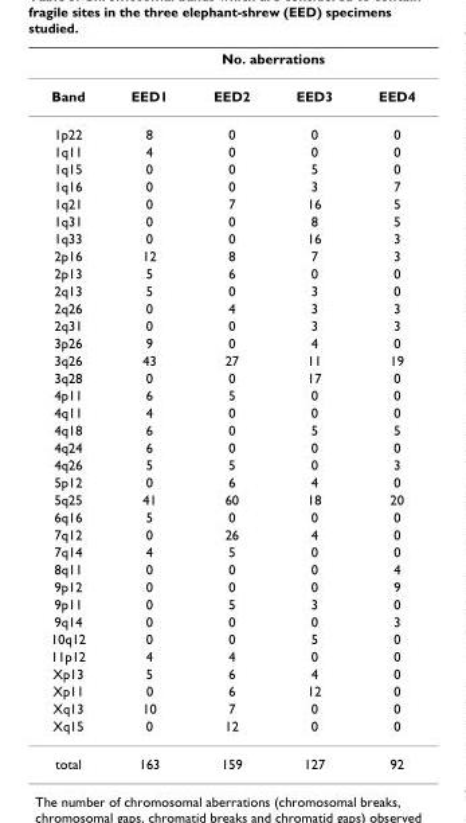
<table><thead><tr><td rowspan="2">Band</td><td colspan="4">No. aberrations</td></tr><tr><td>EED1</td><td>EED2</td><td>EED3</td><td>EED4</td></tr></thead><tbody><tr><td>1p22</td><td>8</td><td>0</td><td>0</td><td>0</td></tr><tr><td>1q11</td><td>4</td><td>0</td><td>0</td><td>0</td></tr><tr><td>1q15</td><td>0</td><td>0</td><td>5</td><td>0</td></tr><tr><td>1q16</td><td>0</td><td>0</td><td>3</td><td>7</td></tr><tr><td>1q21</td><td>0</td><td>7</td><td>16</td><td>5</td></tr><tr><td>1q31</td><td>0</td><td>0</td><td>8</td><td>5</td></tr><tr><td>1q33</td><td>0</td><td>0</td><td>16</td><td>3</td></tr><tr><td>2p16</td><td>12</td><td>8</td><td>7</td><td>3</td></tr><tr><td>2p13</td><td>5</td><td>6</td><td>0</td><td>0</td></tr><tr><td>2q13</td><td>5</td><td>0</td><td>3</td><td>0</td></tr><tr><td>2q26</td><td>0</td><td>4</td><td>3</td><td>3</td></tr><tr><td>2q31</td><td>0</td><td>0</td><td>3</td><td>3</td></tr><tr><td>3p26</td><td>9</td><td>0</td><td>4</td><td>0</td></tr><tr><td>3q26</td><td>43</td><td>27</td><td>11</td><td>19</td></tr><tr><td>3q28</td><td>0</td><td>0</td><td>17</td><td>0</td></tr><tr><td>4p11</td><td>6</td><td>5</td><td>0</td><td>0</td></tr><tr><td>4q11</td><td>4</td><td>0</td><td>0</td><td>0</td></tr><tr><td>4q18</td><td>6</td><td>0</td><td>5</td><td>5</td></tr><tr><td>4q24</td><td>6</td><td>0</td><td>0</td><td>0</td></tr><tr><td>4q26</td><td>5</td><td>5</td><td>0</td><td>3</td></tr><tr><td>5p12</td><td>0</td><td>6</td><td>4</td><td>0</td></tr><tr><td>5q25</td><td>41</td><td>60</td><td>18</td><td>20</td></tr><tr><td>6q16</td><td>5</td><td>0</td><td>0</td><td>0</td></tr><tr><td>7q12</td><td>0</td><td>26</td><td>4</td><td>0</td></tr><tr><td>7q14</td><td>4</td><td>5</td><td>0</td><td>0</td></tr><tr><td>8q11</td><td>0</td><td>0</td><td>0</td><td>4</td></tr><tr><td>9p12</td><td>0</td><td>0</td><td>0</td><td>9</td></tr><tr><td>9p11</td><td>0</td><td>5</td><td>3</td><td>0</td></tr><tr><td>9q14</td><td>0</td><td>0</td><td>0</td><td>3</td></tr><tr><td>10q12</td><td>0</td><td>0</td><td>5</td><td>0</td></tr><tr><td>11p12</td><td>4</td><td>4</td><td>0</td><td>0</td></tr><tr><td>Xp13</td><td>5</td><td>6</td><td>4</td><td>0</td></tr><tr><td>Xp11</td><td>0</td><td>6</td><td>12</td><td>0</td></tr><tr><td>Xq13</td><td>10</td><td>7</td><td>0</td><td>0</td></tr><tr><td>Xq15</td><td>0</td><td>12</td><td>0</td><td>0</td></tr><tr><td>total</td><td>163</td><td>159</td><td>127</td><td>92</td></tr></tbody></table>